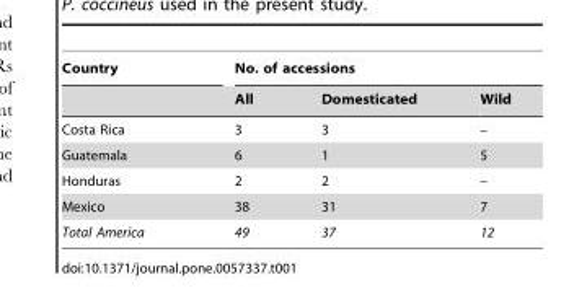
<table><thead><tr><td rowspan="2">Country</td><td colspan="3">No. of accessions</td></tr><tr><td>All</td><td>Domesticated</td><td>Wild</td></tr></thead><tbody><tr><td>Costa Rica</td><td>3</td><td>3</td><td>–</td></tr><tr><td>Guatemala</td><td>6</td><td>1</td><td>5</td></tr><tr><td>Honduras</td><td>2</td><td>2</td><td>–</td></tr><tr><td>Mexico</td><td>38</td><td>31</td><td>7</td></tr><tr><td>Total America</td><td>49</td><td>37</td><td>12</td></tr></tbody></table>